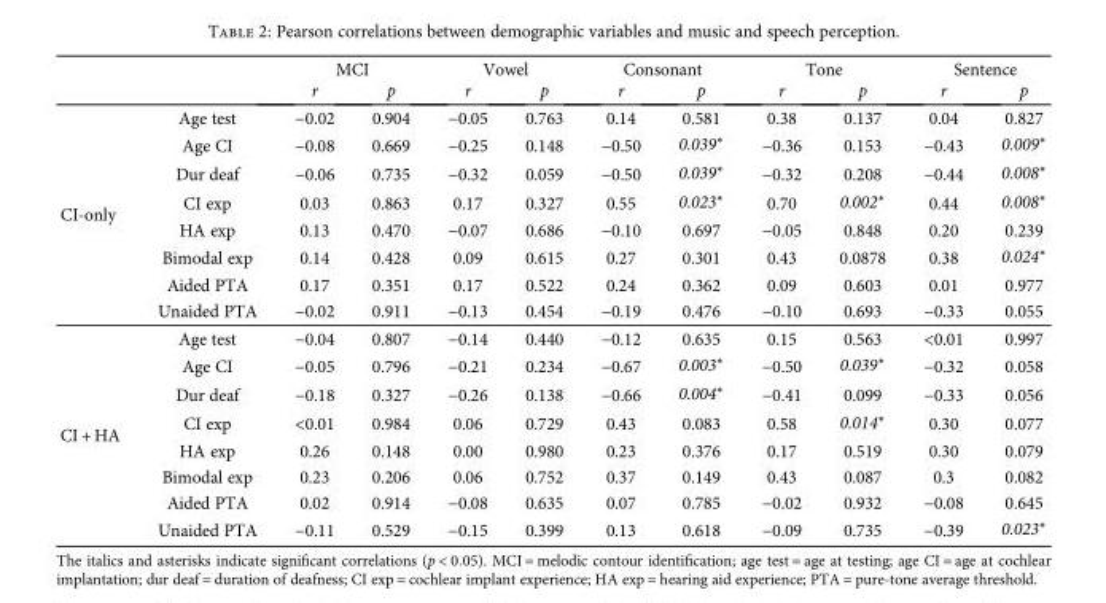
<table><thead><tr><td rowspan="2"></td><td rowspan="2"></td><td colspan="2">MCI</td><td colspan="2">Vowel</td><td colspan="2">Consonant</td><td colspan="2">Tone</td><td colspan="2">Sentence</td></tr><tr><td>r</td><td>p</td><td>r</td><td>p</td><td>r</td><td>p</td><td>r</td><td>p</td><td>r</td><td>p</td></tr></thead><tbody><tr><td rowspan="8">CI-only</td><td>Age test</td><td>−0.02</td><td>0.904</td><td>−0.05</td><td>0.763</td><td>0.14</td><td>0.581</td><td>0.38</td><td>0.137</td><td>0.04</td><td>0.827</td></tr><tr><td>Age CI</td><td>−0.08</td><td>0.669</td><td>−0.25</td><td>0.148</td><td>−0.50</td><td>0.039∗</td><td>−0.36</td><td>0.153</td><td>−0.43</td><td>0.009∗</td></tr><tr><td>Dur deaf</td><td>−0.06</td><td>0.735</td><td>−0.32</td><td>0.059</td><td>−0.50</td><td>0.039∗</td><td>−0.32</td><td>0.208</td><td>−0.44</td><td>0.008∗</td></tr><tr><td>CI exp</td><td>0.03</td><td>0.863</td><td>0.17</td><td>0.327</td><td>0.55</td><td>0.023∗</td><td>0.70</td><td>0.002∗</td><td>0.44</td><td>0.008∗</td></tr><tr><td>HA exp</td><td>0.13</td><td>0.470</td><td>−0.07</td><td>0.686</td><td>−0.10</td><td>0.697</td><td>−0.05</td><td>0.848</td><td>0.20</td><td>0.239</td></tr><tr><td>Bimodal exp</td><td>0.14</td><td>0.428</td><td>0.09</td><td>0.615</td><td>0.27</td><td>0.301</td><td>0.43</td><td>0.0878</td><td>0.38</td><td>0.024∗</td></tr><tr><td>Aided PTA</td><td>0.17</td><td>0.351</td><td>0.17</td><td>0.522</td><td>0.24</td><td>0.362</td><td>0.09</td><td>0.603</td><td>0.01</td><td>0.977</td></tr><tr><td>Unaided PTA</td><td>−0.02</td><td>0.911</td><td>−0.13</td><td>0.454</td><td>−0.19</td><td>0.476</td><td>−0.10</td><td>0.693</td><td>−0.33</td><td>0.055</td></tr><tr><td rowspan="8">CI + HA</td><td>Age test</td><td>−0.04</td><td>0.807</td><td>−0.14</td><td>0.440</td><td>−0.12</td><td>0.635</td><td>0.15</td><td>0.563</td><td>&lt;0.01</td><td>0.997</td></tr><tr><td>Age CI</td><td>−0.05</td><td>0.796</td><td>−0.21</td><td>0.234</td><td>−0.67</td><td>0.003∗</td><td>−0.50</td><td>0.039∗</td><td>−0.32</td><td>0.058</td></tr><tr><td>Dur deaf</td><td>−0.18</td><td>0.327</td><td>−0.26</td><td>0.138</td><td>−0.66</td><td>0.004∗</td><td>−0.41</td><td>0.099</td><td>−0.33</td><td>0.056</td></tr><tr><td>CI exp</td><td>&lt;0.01</td><td>0.984</td><td>0.06</td><td>0.729</td><td>0.43</td><td>0.083</td><td>0.58</td><td>0.014∗</td><td>0.30</td><td>0.077</td></tr><tr><td>HA exp</td><td>0.26</td><td>0.148</td><td>0.00</td><td>0.980</td><td>0.23</td><td>0.376</td><td>0.17</td><td>0.519</td><td>0.30</td><td>0.079</td></tr><tr><td>Bimodal exp</td><td>0.23</td><td>0.206</td><td>0.06</td><td>0.752</td><td>0.37</td><td>0.149</td><td>0.43</td><td>0.087</td><td>0.3</td><td>0.082</td></tr><tr><td>Aided PTA</td><td>0.02</td><td>0.914</td><td>−0.08</td><td>0.635</td><td>0.07</td><td>0.785</td><td>−0.02</td><td>0.932</td><td>−0.08</td><td>0.645</td></tr><tr><td>Unaided PTA</td><td>−0.11</td><td>0.529</td><td>−0.15</td><td>0.399</td><td>0.13</td><td>0.618</td><td>−0.09</td><td>0.735</td><td>−0.39</td><td>0.023∗</td></tr></tbody></table>